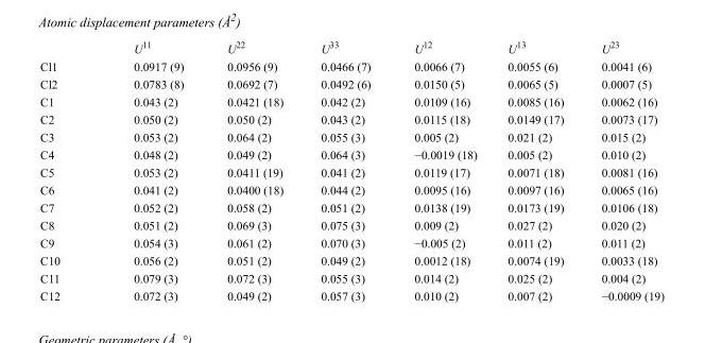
<table><thead><tr><td></td><td>U<sup>11</sup></td><td>U<sup>22</sup></td><td>U<sup>33</sup></td><td>U<sup>12</sup></td><td>U<sup>13</sup></td><td>U<sup>23</sup></td></tr></thead><tbody><tr><td>Cl1</td><td>0.0917 (9)</td><td>0.0956 (9)</td><td>0.0466 (7)</td><td>0.0066 (7)</td><td>0.0055 (6)</td><td>0.0041 (6)</td></tr><tr><td>Cl2</td><td>0.0783 (8)</td><td>0.0692 (7)</td><td>0.0492 (6)</td><td>0.0150 (5)</td><td>0.0065 (5)</td><td>0.0007 (5)</td></tr><tr><td>C1</td><td>0.043 (2)</td><td>0.0421 (18)</td><td>0.042 (2)</td><td>0.0109 (16)</td><td>0.0085 (16)</td><td>0.0062 (16)</td></tr><tr><td>C2</td><td>0.050 (2)</td><td>0.050 (2)</td><td>0.043 (2)</td><td>0.0115 (18)</td><td>0.0149 (17)</td><td>0.0073 (17)</td></tr><tr><td>C3</td><td>0.053 (2)</td><td>0.064 (2)</td><td>0.055 (3)</td><td>0.005 (2)</td><td>0.021 (2)</td><td>0.015 (2)</td></tr><tr><td>C4</td><td>0.048 (2)</td><td>0.049 (2)</td><td>0.064 (3)</td><td>−0.0019 (18)</td><td>0.005 (2)</td><td>0.010 (2)</td></tr><tr><td>C5</td><td>0.053 (2)</td><td>0.0411 (19)</td><td>0.041 (2)</td><td>0.0119 (17)</td><td>0.0071 (18)</td><td>0.0081 (16)</td></tr><tr><td>C6</td><td>0.041 (2)</td><td>0.0400 (18)</td><td>0.044 (2)</td><td>0.0095 (16)</td><td>0.0097 (16)</td><td>0.0065 (16)</td></tr><tr><td>C7</td><td>0.052 (2)</td><td>0.058 (2)</td><td>0.051 (2)</td><td>0.0138 (19)</td><td>0.0173 (19)</td><td>0.0106 (18)</td></tr><tr><td>C8</td><td>0.051 (2)</td><td>0.069 (3)</td><td>0.075 (3)</td><td>0.009 (2)</td><td>0.027 (2)</td><td>0.020 (2)</td></tr><tr><td>C9</td><td>0.054 (3)</td><td>0.061 (2)</td><td>0.070 (3)</td><td>−0.005 (2)</td><td>0.011 (2)</td><td>0.011 (2)</td></tr><tr><td>C10</td><td>0.056 (2)</td><td>0.051 (2)</td><td>0.049 (2)</td><td>0.0012 (18)</td><td>0.0074 (19)</td><td>0.0033 (18)</td></tr><tr><td>C11</td><td>0.079 (3)</td><td>0.072 (3)</td><td>0.055 (3)</td><td>0.014 (2)</td><td>0.025 (2)</td><td>0.004 (2)</td></tr><tr><td>C12</td><td>0.072 (3)</td><td>0.049 (2)</td><td>0.057 (3)</td><td>0.010 (2)</td><td>0.007 (2)</td><td>−0.0009 (19)</td></tr></tbody></table>